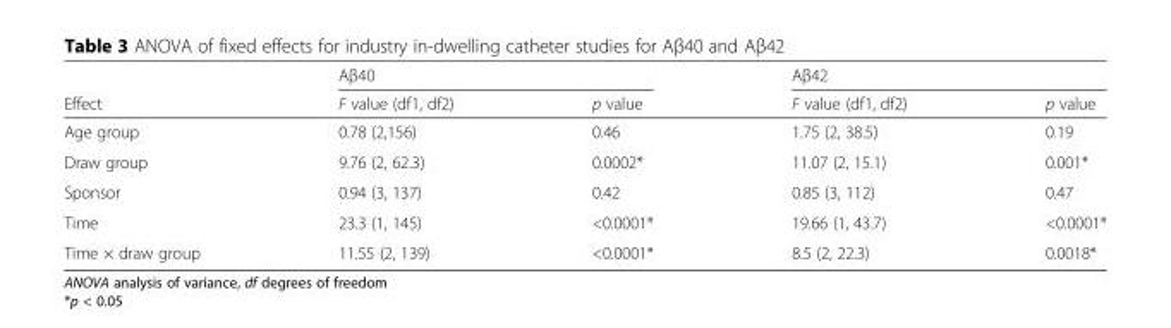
<table><thead><tr><td rowspan="2">Effect</td><td colspan="2">Aβ40</td><td colspan="2">Aβ42</td></tr><tr><td>F value (df1, df2)</td><td>p value</td><td>F value (df1, df2)</td><td>p value</td></tr></thead><tbody><tr><td>Age group</td><td>0.78 (2,156)</td><td>0.46</td><td>1.75 (2, 38.5)</td><td>0.19</td></tr><tr><td>Draw group</td><td>9.76 (2, 62.3)</td><td>0.0002*</td><td>11.07 (2, 15.1)</td><td>0.001*</td></tr><tr><td>Sponsor</td><td>0.94 (3, 137)</td><td>0.42</td><td>0.85 (3, 112)</td><td>0.47</td></tr><tr><td>Time</td><td>23.3 (1, 145)</td><td>&lt;0.0001*</td><td>19.66 (1, 43.7)</td><td>&lt;0.0001*</td></tr><tr><td>Time × draw group</td><td>11.55 (2, 139)</td><td>&lt;0.0001*</td><td>8.5 (2, 22.3)</td><td>0.0018*</td></tr></tbody></table>